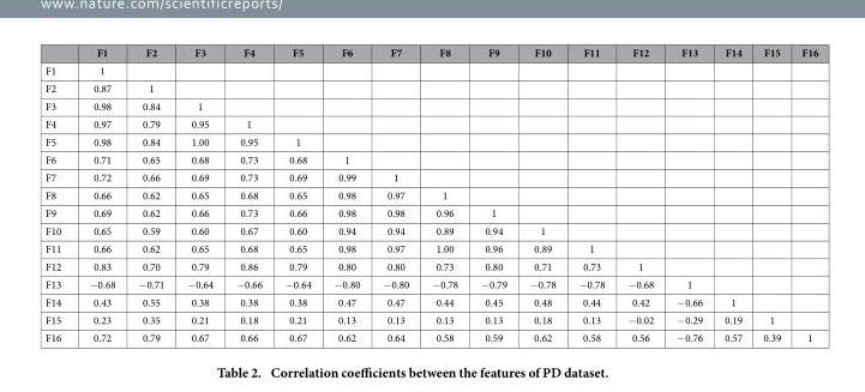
<table><thead><tr><td></td><td>F1</td><td>F2</td><td>F3</td><td>F4</td><td>F5</td><td>F6</td><td>F7</td><td>F8</td><td>F9</td><td>F10</td><td>F11</td><td>F12</td><td>F13</td><td>F14</td><td>F15</td><td>F16</td></tr></thead><tbody><tr><td>F1</td><td>1</td><td></td><td></td><td></td><td></td><td></td><td></td><td></td><td></td><td></td><td></td><td></td><td></td><td></td><td></td><td></td></tr><tr><td>F2</td><td>0.87</td><td>1</td><td></td><td></td><td></td><td></td><td></td><td></td><td></td><td></td><td></td><td></td><td></td><td></td><td></td><td></td></tr><tr><td>F3</td><td>0.98</td><td>0.84</td><td>1</td><td></td><td></td><td></td><td></td><td></td><td></td><td></td><td></td><td></td><td></td><td></td><td></td><td></td></tr><tr><td>F4</td><td>0.97</td><td>0.79</td><td>0.95</td><td>1</td><td></td><td></td><td></td><td></td><td></td><td></td><td></td><td></td><td></td><td></td><td></td><td></td></tr><tr><td>F5</td><td>0.98</td><td>0.84</td><td>1.00</td><td>0.95</td><td>1</td><td></td><td></td><td></td><td></td><td></td><td></td><td></td><td></td><td></td><td></td><td></td></tr><tr><td>F6</td><td>0.71</td><td>0.65</td><td>0.68</td><td>0.73</td><td>0.68</td><td>1</td><td></td><td></td><td></td><td></td><td></td><td></td><td></td><td></td><td></td><td></td></tr><tr><td>F7</td><td>0.72</td><td>0.66</td><td>0.69</td><td>0.73</td><td>0.69</td><td>0.99</td><td>1</td><td></td><td></td><td></td><td></td><td></td><td></td><td></td><td></td><td></td></tr><tr><td>F8</td><td>0.66</td><td>0.62</td><td>0.65</td><td>0.68</td><td>0.65</td><td>0.98</td><td>0.97</td><td>1</td><td></td><td></td><td></td><td></td><td></td><td></td><td></td><td></td></tr><tr><td>F9</td><td>0.69</td><td>0.62</td><td>0.66</td><td>0.73</td><td>0.66</td><td>0.98</td><td>0.98</td><td>0.96</td><td>1</td><td></td><td></td><td></td><td></td><td></td><td></td><td></td></tr><tr><td>F10</td><td>0.65</td><td>0.59</td><td>0.60</td><td>0.67</td><td>0.60</td><td>0.94</td><td>0.94</td><td>0.89</td><td>0.94</td><td>1</td><td></td><td></td><td></td><td></td><td></td><td></td></tr><tr><td>F11</td><td>0.66</td><td>0.62</td><td>0.65</td><td>0.68</td><td>0.65</td><td>0.98</td><td>0.97</td><td>1.00</td><td>0.96</td><td>0.89</td><td>1</td><td></td><td></td><td></td><td></td><td></td></tr><tr><td>F12</td><td>0.83</td><td>0.70</td><td>0.79</td><td>0.86</td><td>0.79</td><td>0.80</td><td>0.80</td><td>0.73</td><td>0.80</td><td>0.71</td><td>0.73</td><td>1</td><td></td><td></td><td></td><td></td></tr><tr><td>F13</td><td>− 0.68</td><td>− 0.71</td><td>− 0.64</td><td>− 0.66</td><td>− 0.64</td><td>− 0.80</td><td>− 0.80</td><td>− 0.78</td><td>− 0.79</td><td>− 0.78</td><td>− 0.78</td><td>− 0.68</td><td>1</td><td></td><td></td><td></td></tr><tr><td>F14</td><td>0.43</td><td>0.55</td><td>0.38</td><td>0.38</td><td>0.38</td><td>0.47</td><td>0.47</td><td>0.44</td><td>0.45</td><td>0.48</td><td>0.44</td><td>0.42</td><td>− 0.66</td><td>1</td><td></td><td></td></tr><tr><td>F15</td><td>0.23</td><td>0.35</td><td>0.21</td><td>0.18</td><td>0.21</td><td>0.13</td><td>0.13</td><td>0.13</td><td>0.13</td><td>0.18</td><td>0.13</td><td>− 0.02</td><td>− 0.29</td><td>0.19</td><td>1</td><td></td></tr><tr><td>F16</td><td>0.72</td><td>0.79</td><td>0.67</td><td>0.66</td><td>0.67</td><td>0.62</td><td>0.64</td><td>0.58</td><td>0.59</td><td>0.62</td><td>0.58</td><td>0.56</td><td>− 0.76</td><td>0.57</td><td>0.39</td><td>1</td></tr></tbody></table>